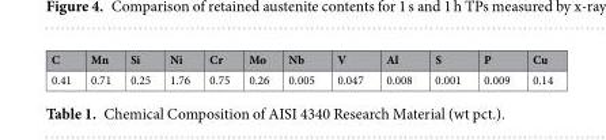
<table><thead><tr><td>C</td><td>Mn</td><td>Si</td><td>Ni</td><td>Cr</td><td>Mo</td><td>Nb</td><td>V</td><td>Al</td><td>S</td><td>P</td><td>Cu</td></tr></thead><tbody><tr><td>0.41</td><td>0.71</td><td>0.25</td><td>1.76</td><td>0.75</td><td>0.26</td><td>0.005</td><td>0.047</td><td>0.008</td><td>0.001</td><td>0.009</td><td>0.14</td></tr></tbody></table>